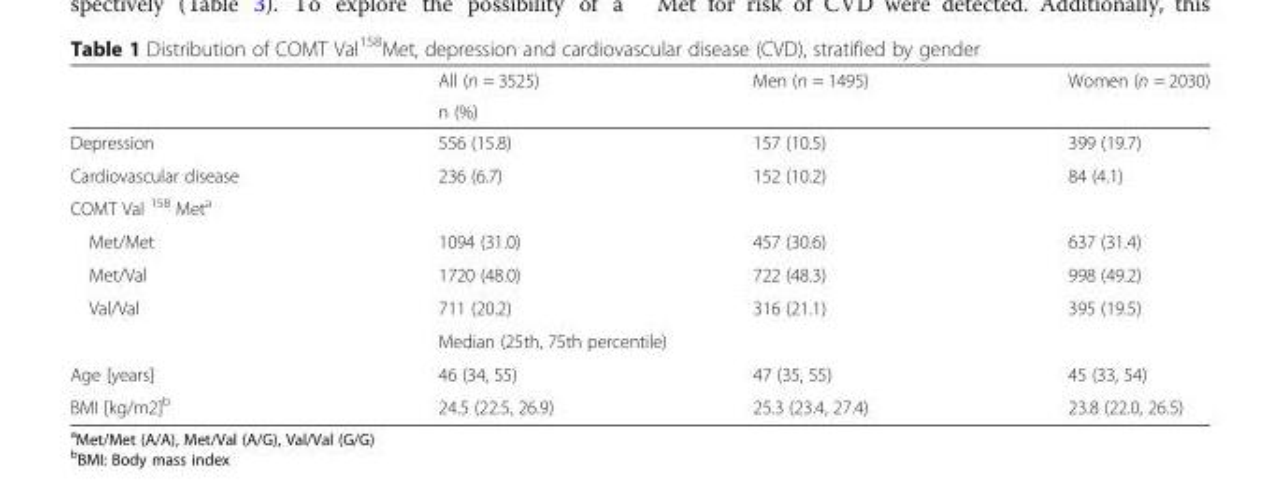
<table><thead><tr><td rowspan="2"></td><td>All (n = 3525)</td><td>Men (n = 1495)</td><td>Women (n = 2030)</td></tr><tr><td colspan="3">n (%)</td></tr></thead><tbody><tr><td>Depression</td><td>556 (15.8)</td><td>157 (10.5)</td><td>399 (19.7)</td></tr><tr><td>Cardiovascular disease</td><td>236 (6.7)</td><td>152 (10.2)</td><td>84 (4.1)</td></tr><tr><td colspan="4">COMT Val <sup>158</sup> Met<sup>a</sup></td></tr><tr><td>Met/Met</td><td>1094 (31.0)</td><td>457 (30.6)</td><td>637 (31.4)</td></tr><tr><td>Met/Val</td><td>1720 (48.0)</td><td>722 (48.3)</td><td>998 (49.2)</td></tr><tr><td rowspan="2">Val/Val</td><td>711 (20.2)</td><td>316 (21.1)</td><td>395 (19.5)</td></tr><tr><td colspan="3">Median (25th, 75th percentile)</td></tr><tr><td>Age [years]</td><td>46 (34, 55)</td><td>47 (35, 55)</td><td>45 (33, 54)</td></tr><tr><td>BMI [kg/m2]<sup>b</sup></td><td>24.5 (22.5, 26.9)</td><td>25.3 (23.4, 27.4)</td><td>23.8 (22.0, 26.5)</td></tr></tbody></table>